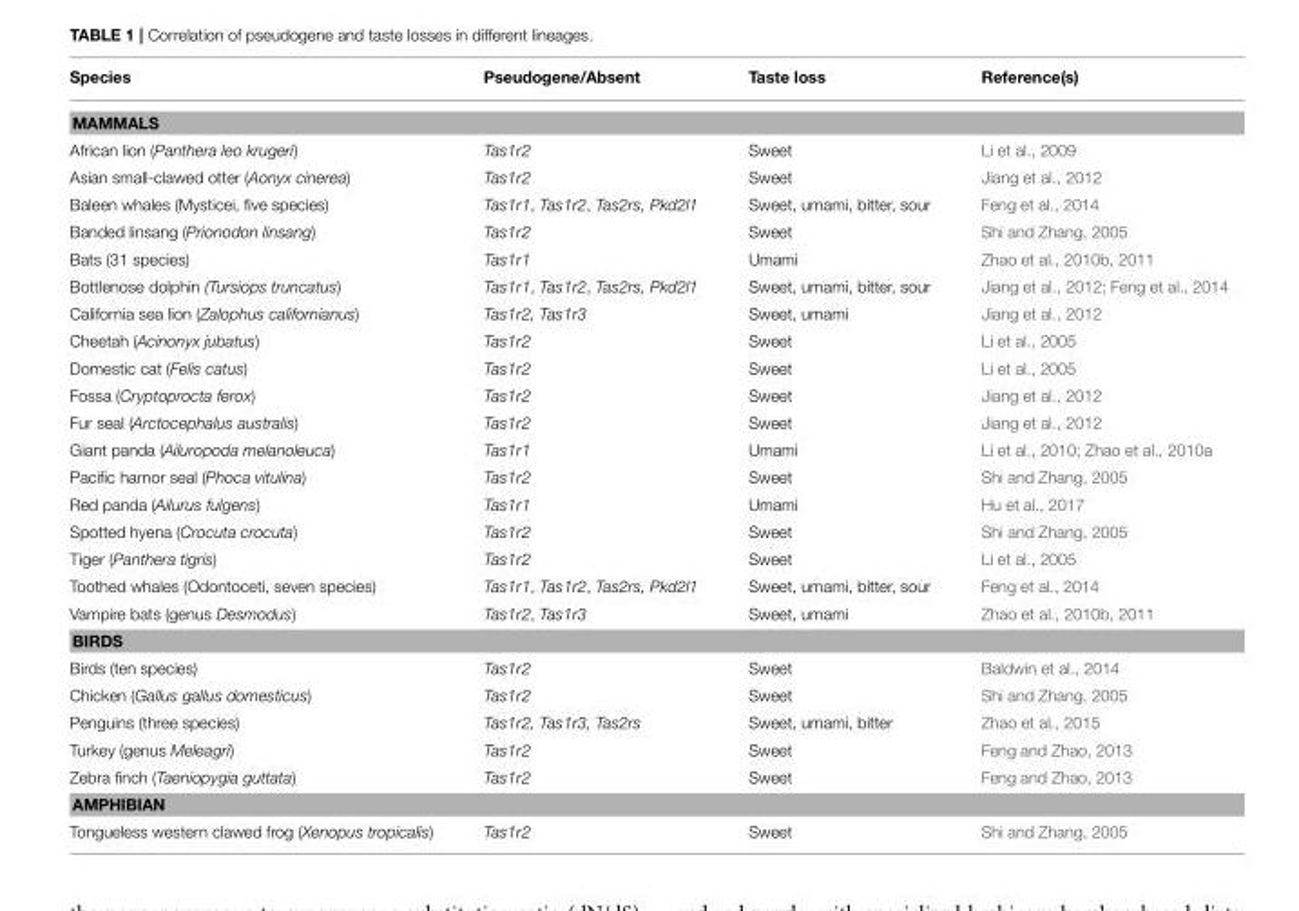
<table><thead><tr><td>Species</td><td>Pseudogene/Absent</td><td>Taste loss</td><td>Reference(s)</td></tr></thead><tbody><tr><td colspan="4">MAMMALS</td></tr><tr><td>African lion (Panthera leo krugeri)</td><td>Tas1r2</td><td>Sweet</td><td>Li et al., 2009</td></tr><tr><td>Asian small-clawed otter (Aonyx cinerea)</td><td>Tas1r2</td><td>Sweet</td><td>Jiang et al., 2012</td></tr><tr><td>Baleen whales (Mysticei, five species)</td><td>Tas1r1, Tas1r2, Tas2rs, Pkd2l1</td><td>Sweet, umami, bitter, sour</td><td>Feng et al., 2014</td></tr><tr><td>Banded linsang (Prionodon linsang)</td><td>Tas1r2</td><td>Sweet</td><td>Shi and Zhang, 2005</td></tr><tr><td>Bats (31 species)</td><td>Tas1r1</td><td>Umami</td><td>Zhao et al., 2010b, 2011</td></tr><tr><td>Bottlenose dolphin (Tursiops truncatus)</td><td>Tas1r1, Tas1r2, Tas2rs, Pkd2l1</td><td>Sweet, umami, bitter, sour</td><td>Jiang et al., 2012; Feng et al., 2014</td></tr><tr><td>California sea lion (Zalophus californianus)</td><td>Tas1r2, Tas1r3</td><td>Sweet, umami</td><td>Jiang et al., 2012</td></tr><tr><td>Cheetah (Acinonyx jubatus)</td><td>Tas1r2</td><td>Sweet</td><td>Li et al., 2005</td></tr><tr><td>Domestic cat (Felis catus)</td><td>Tas1r2</td><td>Sweet</td><td>Li et al., 2005</td></tr><tr><td>Fossa (Cryptoprocta ferox)</td><td>Tas1r2</td><td>Sweet</td><td>Jiang et al., 2012</td></tr><tr><td>Fur seal (Arctocephalus australis)</td><td>Tas1r2</td><td>Sweet</td><td>Jiang et al., 2012</td></tr><tr><td>Giant panda (Ailuropoda melanoleuca)</td><td>Tas1r1</td><td>Umami</td><td>Li et al., 2010; Zhao et al., 2010a</td></tr><tr><td>Pacific harnor seal (Phoca vitulina)</td><td>Tas1r2</td><td>Sweet</td><td>Shi and Zhang, 2005</td></tr><tr><td>Red panda (Ailurus fulgens)</td><td>Tas1r1</td><td>Umami</td><td>Hu et al., 2017</td></tr><tr><td>Spotted hyena (Crocuta crocuta)</td><td>Tas1r2</td><td>Sweet</td><td>Shi and Zhang, 2005</td></tr><tr><td>Tiger (Panthera tigris)</td><td>Tas1r2</td><td>Sweet</td><td>Li et al., 2005</td></tr><tr><td>Toothed whales (Odontoceti, seven species)</td><td>Tas1r1, Tas1r2, Tas2rs, Pkd2l1</td><td>Sweet, umami, bitter, sour</td><td>Feng et al., 2014</td></tr><tr><td>Vampire bats (genus Desmodus)</td><td>Tas1r2, Tas1r3</td><td>Sweet, umami</td><td>Zhao et al., 2010b, 2011</td></tr><tr><td colspan="4">BIRDS</td></tr><tr><td>Birds (ten species)</td><td>Tas1r2</td><td>Sweet</td><td>Baldwin et al., 2014</td></tr><tr><td>Chicken (Gallus gallus domesticus)</td><td>Tas1r2</td><td>Sweet</td><td>Shi and Zhang, 2005</td></tr><tr><td>Penguins (three species)</td><td>Tas1r2, Tas1r3, Tas2rs</td><td>Sweet, umami, bitter</td><td>Zhao et al., 2015</td></tr><tr><td>Turkey (genus Meleagri)</td><td>Tas1r2</td><td>Sweet</td><td>Feng and Zhao, 2013</td></tr><tr><td>Zebra finch (Taeniopygia guttata)</td><td>Tas1r2</td><td>Sweet</td><td>Feng and Zhao, 2013</td></tr><tr><td colspan="4">AMPHIBIAN</td></tr><tr><td>Tongueless western clawed frog (Xenopus tropicalis)</td><td>Tas1r2</td><td>Sweet</td><td>Shi and Zhang, 2005</td></tr></tbody></table>